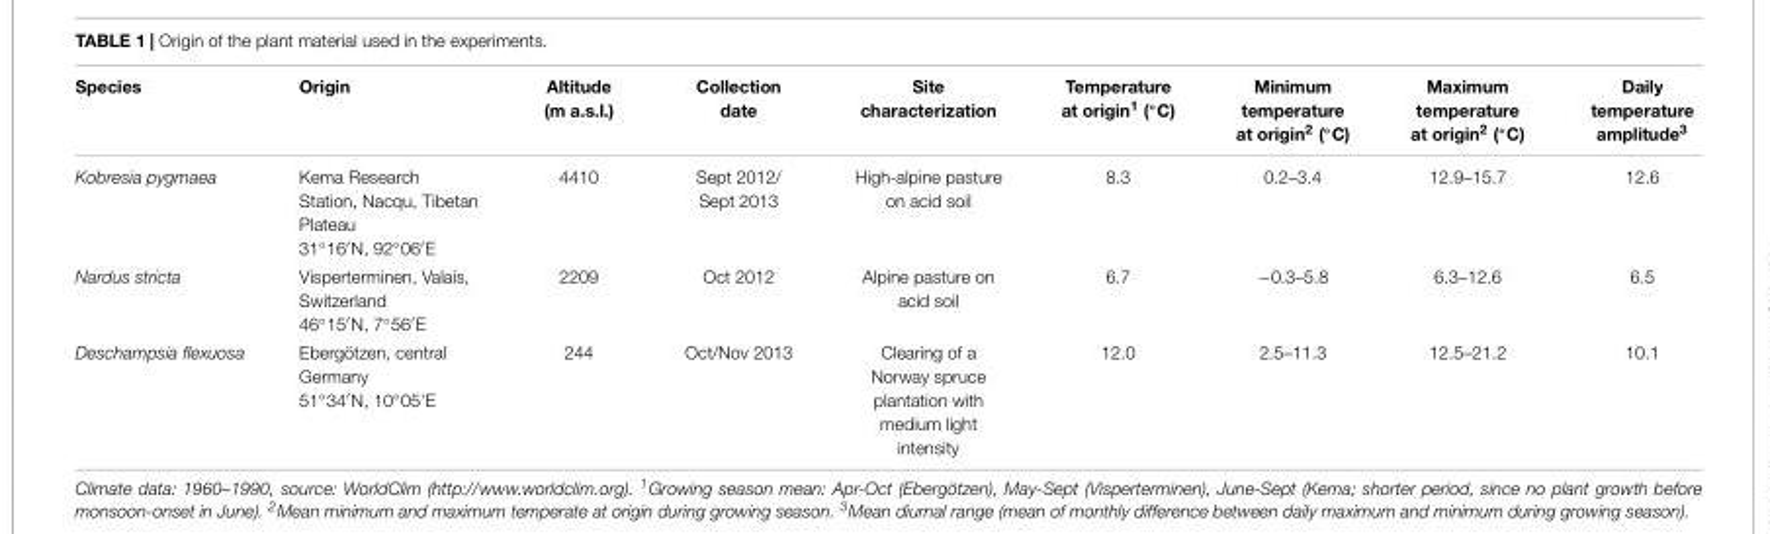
<table><thead><tr><td>Species</td><td>Origin</td><td>Altitude (m a.s.l.)</td><td>Collection date</td><td>Site characterization</td><td>Temperature at origin1 (◦C)</td><td>Minimum temperature at origin2 (◦C)</td><td>Maximum temperature at origin2 (◦C)</td><td>Daily temperature amplitude<sup>3</sup></td></tr></thead><tbody><tr><td>Kobresia pygmaea</td><td>Kema Research Station, Nacqu, Tibetan Plateau 31◦16′N, 92◦06′E</td><td>4410</td><td>Sept 2012/ Sept 2013</td><td>High-alpine pasture on acid soil</td><td>8.3</td><td>0.2–3.4</td><td>12.9–15.7</td><td>12.6</td></tr><tr><td>Nardus stricta</td><td>Visperterminen, Valais, Switzerland 46◦15′N, 7◦56′E</td><td>2209</td><td>Oct 2012</td><td>Alpine pasture on acid soil</td><td>6.7</td><td>−0.3–5.8</td><td>6.3–12.6</td><td>6.5</td></tr><tr><td>Deschampsia flexuosa</td><td>Ebergötzen, central Germany 51◦34′N, 10◦05’E</td><td>244</td><td>Oct/Nov 2013</td><td>Clearing of a Norway spruce plantation with medium light intensity</td><td>12.0</td><td>2.5–11.3</td><td>12.5–21.2</td><td>10.1</td></tr></tbody></table>